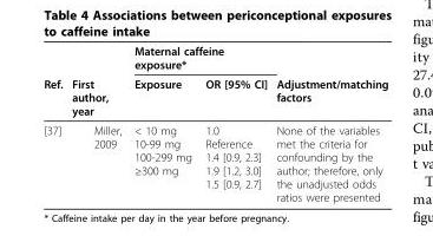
<table><thead><tr><td rowspan="2">Ref.</td><td rowspan="2">First author, year</td><td colspan="2">Maternal caffeine exposure*</td><td rowspan="2">Adjustment/matching factors</td></tr><tr><td>Exposure</td><td>OR [95% CI]</td></tr></thead><tbody><tr><td>[37]</td><td>Miller, 2009</td><td>&lt; 10 mg 10-99 mg 100-299 mg ≥300 mg</td><td>1.0 Reference 1.4 [0.9, 2.3] 1.9 [1.2, 3.0] 1.5 [0.9, 2.7]</td><td>None of the variables met the criteria for confounding by the author; therefore, only the unadjusted odds ratios were presented</td></tr></tbody></table>